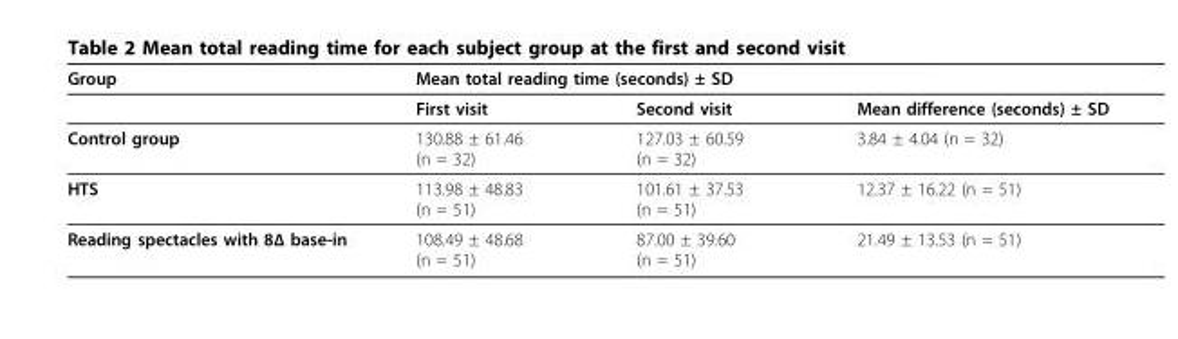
<table><thead><tr><td rowspan="2">Group</td><td colspan="2">Mean total reading time (seconds) ± SD</td><td rowspan="2">Mean difference (seconds) ± SD</td></tr><tr><td>First visit</td><td>Second visit</td></tr></thead><tbody><tr><td>Control group</td><td>130.88 ± 61.46 (n = 32)</td><td>127.03 ± 60.59 (n = 32)</td><td>3.84 ± 4.04 (n = 32)</td></tr><tr><td>HTS</td><td>113.98 ± 48.83 (n = 51)</td><td>101.61 ± 37.53 (n = 51)</td><td>12.37 ± 16.22 (n = 51)</td></tr><tr><td>Reading spectacles with 8Δ base-in</td><td>108.49 ± 48.68 (n = 51)</td><td>87.00 ± 39.60 (n = 51)</td><td>21.49 ± 13.53 (n = 51)</td></tr></tbody></table>